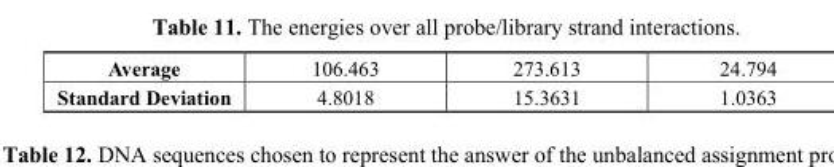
<table><tbody><tr><td>Average</td><td>106.463</td><td>273.613</td><td>24.794</td></tr><tr><td>Standard Deviation</td><td>4.8018</td><td>15.3631</td><td>1.0363</td></tr></tbody></table>